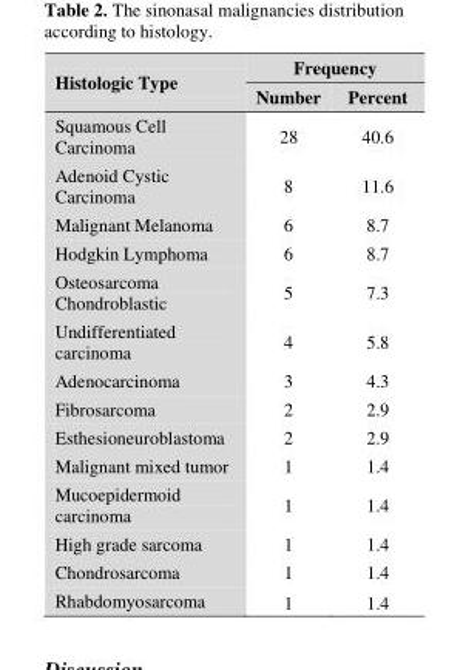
<table><thead><tr><td rowspan="2">Histologic Type</td><td colspan="2">Frequency</td></tr><tr><td>Number</td><td>Percent</td></tr></thead><tbody><tr><td>Squamous Cell Carcinoma</td><td>28</td><td>40.6</td></tr><tr><td>Adenoid Cystic Carcinoma</td><td>8</td><td>11.6</td></tr><tr><td>Malignant Melanoma</td><td>6</td><td>8.7</td></tr><tr><td>Hodgkin Lymphoma</td><td>6</td><td>8.7</td></tr><tr><td>Osteosarcoma Chondroblastic</td><td>5</td><td>7.3</td></tr><tr><td>Undifferentiated carcinoma</td><td>4</td><td>5.8</td></tr><tr><td>Adenocarcinoma</td><td>3</td><td>4.3</td></tr><tr><td>Fibrosarcoma</td><td>2</td><td>2.9</td></tr><tr><td>Esthesioneuroblastoma</td><td>2</td><td>2.9</td></tr><tr><td>Malignant mixed tumor</td><td>1</td><td>1.4</td></tr><tr><td>Mucoepidermoid carcinoma</td><td>1</td><td>1.4</td></tr><tr><td>High grade sarcoma</td><td>1</td><td>1.4</td></tr><tr><td>Chondrosarcoma</td><td>1</td><td>1.4</td></tr><tr><td>Rhabdomyosarcoma</td><td>1</td><td>1.4</td></tr></tbody></table>